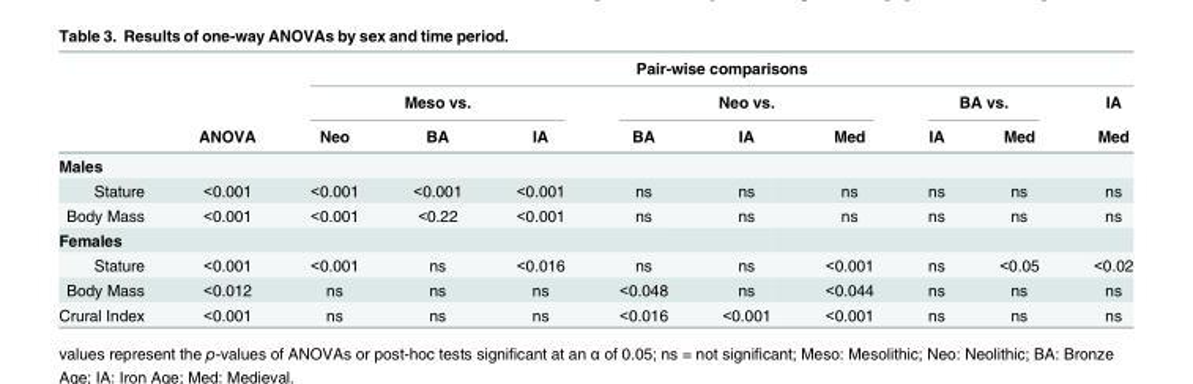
<table><thead><tr><td rowspan="3"></td><td rowspan="3">ANOVA</td><td colspan="9">Pair-wise comparisons</td></tr><tr><td colspan="3">Meso vs.</td><td colspan="3">Neo vs.</td><td colspan="2">BA vs.</td><td rowspan="2">IA Med</td></tr><tr><td>Neo</td><td>BA</td><td>IA</td><td>BA</td><td>IA</td><td>Med</td><td>IA</td><td>Med</td></tr></thead><tbody><tr><td colspan="11">Males</td></tr><tr><td>Stature</td><td>&lt;0.001</td><td>&lt;0.001</td><td>&lt;0.001</td><td>&lt;0.001</td><td>ns</td><td>ns</td><td>ns</td><td>ns</td><td>ns</td><td>ns</td></tr><tr><td>Body Mass</td><td>&lt;0.001</td><td>&lt;0.001</td><td>&lt;0.22</td><td>&lt;0.001</td><td>ns</td><td>ns</td><td>ns</td><td>ns</td><td>ns</td><td>ns</td></tr><tr><td colspan="11">Females</td></tr><tr><td>Stature</td><td>&lt;0.001</td><td>&lt;0.001</td><td>ns</td><td>&lt;0.016</td><td>ns</td><td>ns</td><td>&lt;0.001</td><td>ns</td><td>&lt;0.05</td><td>&lt;0.02</td></tr><tr><td>Body Mass</td><td>&lt;0.012</td><td>ns</td><td>ns</td><td>ns</td><td>&lt;0.048</td><td>ns</td><td>&lt;0.044</td><td>ns</td><td>ns</td><td>ns</td></tr><tr><td>Crural Index</td><td>&lt;0.001</td><td>ns</td><td>ns</td><td>ns</td><td>&lt;0.016</td><td>&lt;0.001</td><td>&lt;0.001</td><td>ns</td><td>ns</td><td>ns</td></tr></tbody></table>